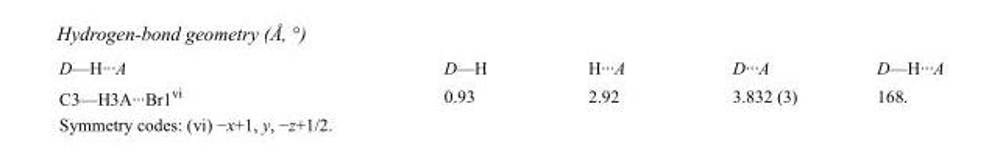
<table><tbody><tr><td>D—H···A</td><td>D—H</td><td>H···A</td><td>D···A</td><td>D—H···A</td></tr><tr><td>C3—H3A···Br1<sup>vi</sup></td><td>0.93</td><td>2.92</td><td>3.832 (3)</td><td>168.</td></tr></tbody></table>